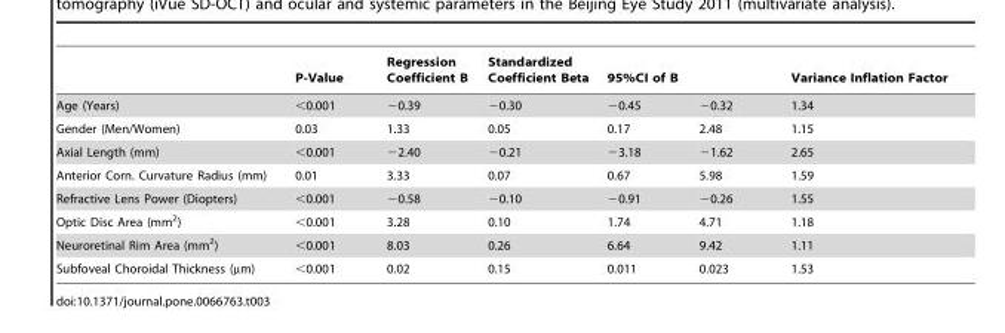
<table><thead><tr><td rowspan="2">Age (Years)</td><td rowspan="2">P-Value &lt;0.001</td><td rowspan="2">Regression Coefficient B −0.39</td><td rowspan="2">Standardized Coefficient Beta −0.30</td><td colspan="2">95%CI of B</td><td rowspan="2">Variance Inflation Factor 1.34</td></tr><tr><td>−0.45</td><td>−0.32</td></tr></thead><tbody><tr><td>Gender (Men/Women)</td><td>0.03</td><td>1.33</td><td>0.05</td><td>0.17</td><td>2.48</td><td>1.15</td></tr><tr><td>Axial Length (mm)</td><td>&lt;0.001</td><td>−2.40</td><td>−0.21</td><td>−3.18</td><td>−1.62</td><td>2.65</td></tr><tr><td>Anterior Corn. Curvature Radius (mm)</td><td>0.01</td><td>3.33</td><td>0.07</td><td>0.67</td><td>5.98</td><td>1.59</td></tr><tr><td>Refractive Lens Power (Diopters)</td><td>&lt;0.001</td><td>−0.58</td><td>−0.10</td><td>−0.91</td><td>−0.26</td><td>1.55</td></tr><tr><td>Optic Disc Area (mm<sup>2</sup>)</td><td>&lt;0.001</td><td>3.28</td><td>0.10</td><td>1.74</td><td>4.71</td><td>1.18</td></tr><tr><td>Neuroretinal Rim Area (mm<sup>2</sup>)</td><td>&lt;0.001</td><td>8.03</td><td>0.26</td><td>6.64</td><td>9.42</td><td>1.11</td></tr><tr><td>Subfoveal Choroidal Thickness (µm)</td><td>&lt;0.001</td><td>0.02</td><td>0.15</td><td>0.011</td><td>0.023</td><td>1.53</td></tr></tbody></table>